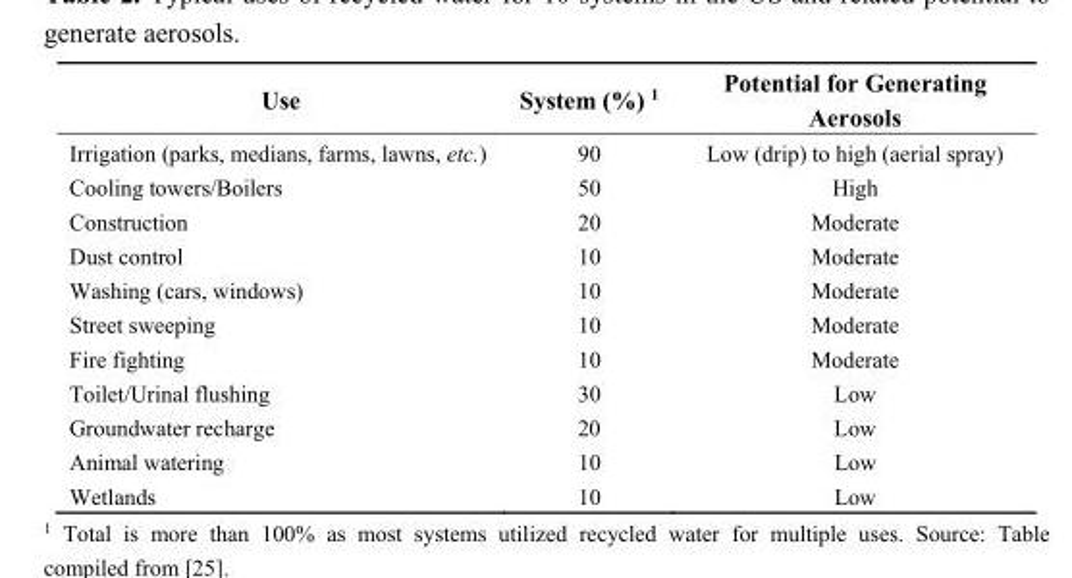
<table><thead><tr><td>Use</td><td>System (%) <sup>1</sup></td><td>Potential for Generating Aerosols</td></tr></thead><tbody><tr><td>Irrigation (parks, medians, farms, lawns, etc.)</td><td>90</td><td>Low (drip) to high (aerial spray)</td></tr><tr><td>Cooling towers/Boilers</td><td>50</td><td>High</td></tr><tr><td>Construction</td><td>20</td><td>Moderate</td></tr><tr><td>Dust control</td><td>10</td><td>Moderate</td></tr><tr><td>Washing (cars, windows)</td><td>10</td><td>Moderate</td></tr><tr><td>Street sweeping</td><td>10</td><td>Moderate</td></tr><tr><td>Fire fighting</td><td>10</td><td>Moderate</td></tr><tr><td>Toilet/Urinal flushing</td><td>30</td><td>Low</td></tr><tr><td>Groundwater recharge</td><td>20</td><td>Low</td></tr><tr><td>Animal watering</td><td>10</td><td>Low</td></tr><tr><td>Wetlands</td><td>10</td><td>Low</td></tr></tbody></table>